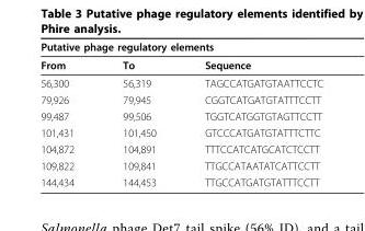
<table><thead><tr><td colspan="3">Putative phage regulatory elements</td></tr><tr><td>From</td><td>To</td><td>Sequence</td></tr></thead><tbody><tr><td>56,300</td><td>56,319</td><td>TAGCCATGATGTAATTCCTC</td></tr><tr><td>79,926</td><td>79,945</td><td>CGGTCATGATGTATTTCCTT</td></tr><tr><td>99,487</td><td>99,506</td><td>TGGTCATGGTGTAGTTCCTT</td></tr><tr><td>101,431</td><td>101,450</td><td>GTCCCATGATGTATTTCTTC</td></tr><tr><td>104,872</td><td>104,891</td><td>TTTCCATCATGCATCTCCTT</td></tr><tr><td>109,822</td><td>109,841</td><td>TTGCCATAATATCATTCCTT</td></tr><tr><td>144,434</td><td>144,453</td><td>TTGCCATGATGTATTTCCTT</td></tr></tbody></table>